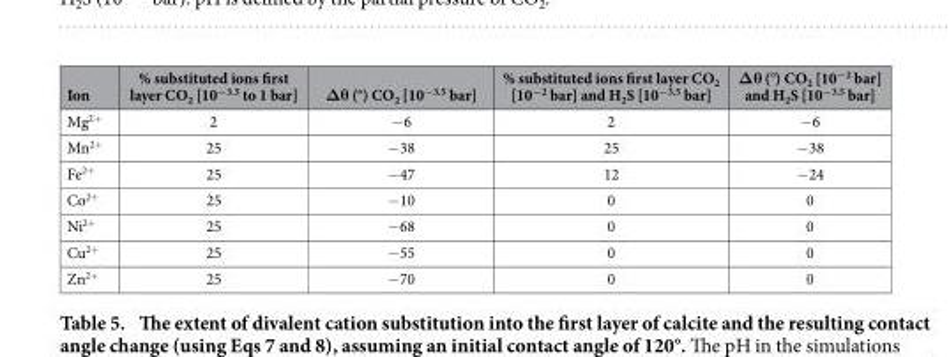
<table><thead><tr><td>Ion</td><td>% substituted ions first layer CO<sub>2</sub> [10<sup>−3.5</sup> to 1 bar]</td><td>Δθ (°) CO<sub>2</sub> [10<sup>−3.5</sup> bar]</td><td>% substituted ions first layer CO<sub>2</sub> [10<sup>−2</sup> bar] and H<sub>2</sub>S [10<sup>−3.5</sup> bar]</td><td>Δθ (°) CO<sub>2</sub> [10<sup>−2</sup> bar] and H<sub>2</sub>S [10<sup>−3.5</sup> bar]</td></tr></thead><tbody><tr><td>Mg<sup>2+</sup></td><td>2</td><td>− 6</td><td>2</td><td>− 6</td></tr><tr><td>Mn<sup>2+</sup></td><td>25</td><td>− 38</td><td>25</td><td>− 38</td></tr><tr><td>Fe<sup>2+</sup></td><td>25</td><td>− 47</td><td>12</td><td>− 24</td></tr><tr><td>Co<sup>2+</sup></td><td>25</td><td>− 10</td><td>0</td><td>0</td></tr><tr><td>Ni<sup>2+</sup></td><td>25</td><td>− 68</td><td>0</td><td>0</td></tr><tr><td>Cu<sup>2+</sup></td><td>25</td><td>− 55</td><td>0</td><td>0</td></tr><tr><td>Zn<sup>2+</sup></td><td>25</td><td>− 70</td><td>0</td><td>0</td></tr></tbody></table>